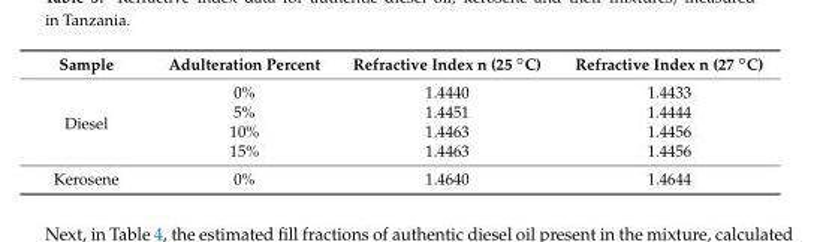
<table><thead><tr><td>Sample</td><td>Adulteration Percent</td><td>Refractive Index n (25 ◦C)</td><td>Refractive Index n (27 ◦C)</td></tr></thead><tbody><tr><td rowspan="4">Diesel</td><td>0%</td><td>1.4440</td><td>1.4433</td></tr><tr><td>5%</td><td>1.4451</td><td>1.4444</td></tr><tr><td>10%</td><td>1.4463</td><td>1.4456</td></tr><tr><td>15%</td><td>1.4463</td><td>1.4456</td></tr><tr><td>Kerosene</td><td>0%</td><td>1.4640</td><td>1.4644</td></tr></tbody></table>